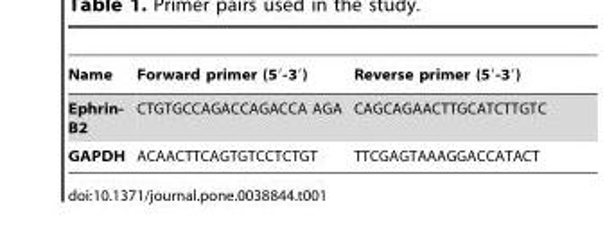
<table><thead><tr><td>Name</td><td>Forward primer (5′-3′)</td><td>Reverse primer (5′-3′)</td></tr></thead><tbody><tr><td>Ephrin- B2</td><td>CTGTGCCAGACCAGACCA AGA</td><td>CAGCAGAACTTGCATCTTGTC</td></tr><tr><td>GAPDH</td><td>ACAACTTCAGTGTCCTCTGT</td><td>TTCGAGTAAAGGACCATACT</td></tr></tbody></table>